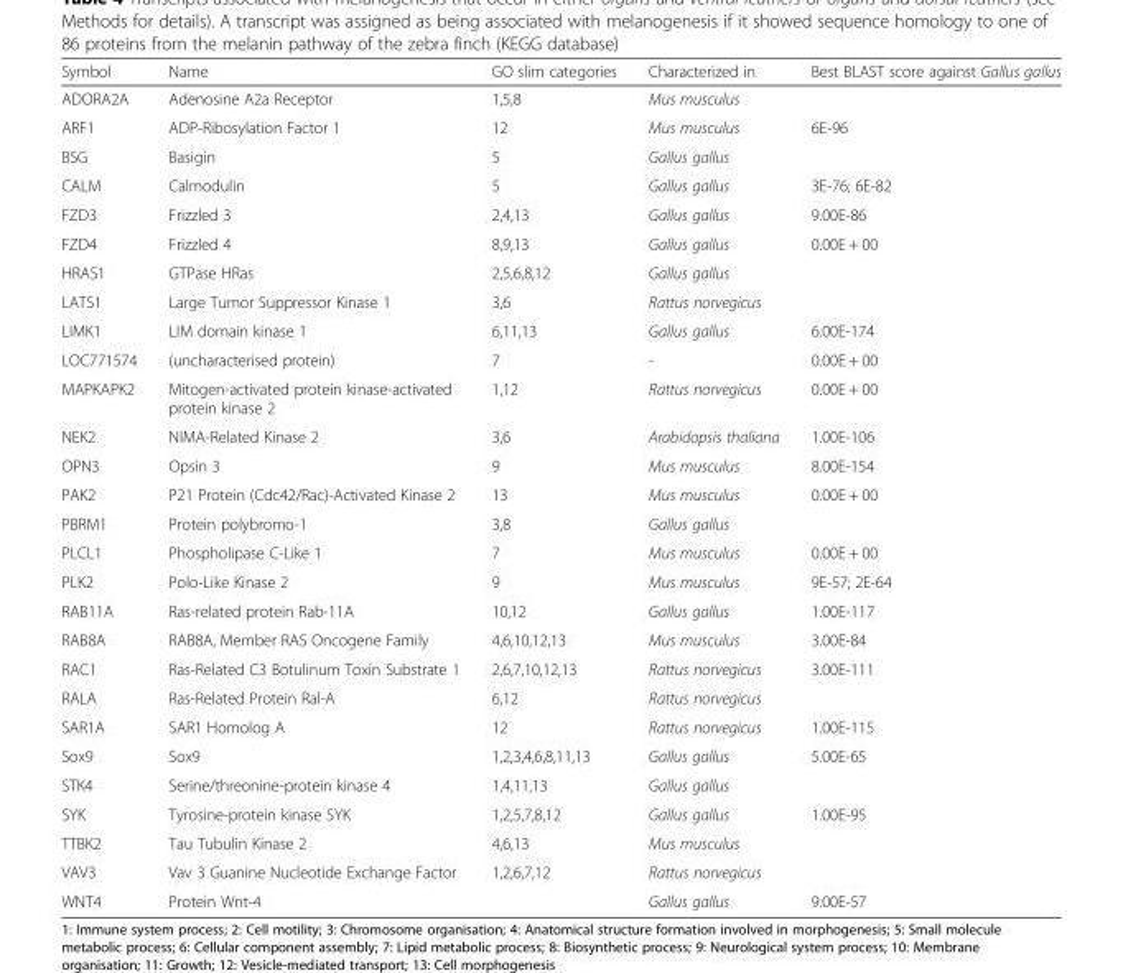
<table><thead><tr><td>Symbol</td><td>Name</td><td>GO slim categories</td><td>Characterized in</td><td>Best BLAST score against Gallus gallus</td></tr></thead><tbody><tr><td>ADORA2A</td><td>Adenosine A2a Receptor</td><td>1,5,8</td><td>Mus musculus</td><td></td></tr><tr><td>ARF1</td><td>ADP-Ribosylation Factor 1</td><td>12</td><td>Mus musculus</td><td>6E-96</td></tr><tr><td>BSG</td><td>Basigin</td><td>5</td><td>Gallus gallus</td><td></td></tr><tr><td>CALM</td><td>Calmodulin</td><td>5</td><td>Gallus gallus</td><td>3E-76; 6E-82</td></tr><tr><td>FZD3</td><td>Frizzled 3</td><td>2,4,13</td><td>Gallus gallus</td><td>9.00E-86</td></tr><tr><td>FZD4</td><td>Frizzled 4</td><td>8,9,13</td><td>Gallus gallus</td><td>0.00E + 00</td></tr><tr><td>HRAS1</td><td>GTPase HRas</td><td>2,5,6,8,12</td><td>Gallus gallus</td><td></td></tr><tr><td>LATS1</td><td>Large Tumor Suppressor Kinase 1</td><td>3,6</td><td>Rattus norvegicus</td><td></td></tr><tr><td>LIMK1</td><td>LIM domain kinase 1</td><td>6,11,13</td><td>Gallus gallus</td><td>6.00E-174</td></tr><tr><td>LOC771574</td><td>(uncharacterised protein)</td><td>7</td><td>-</td><td>0.00E + 00</td></tr><tr><td>MAPKAPK2</td><td>Mitogen-activated protein kinase-activated protein kinase 2</td><td>1,12</td><td>Rattus norvegicus</td><td>0.00E + 00</td></tr><tr><td>NEK2</td><td>NIMA-Related Kinase 2</td><td>3,6</td><td>Arabidopsis thaliana</td><td>1.00E-106</td></tr><tr><td>OPN3</td><td>Opsin 3</td><td>9</td><td>Mus musculus</td><td>8.00E-154</td></tr><tr><td>PAK2</td><td>P21 Protein (Cdc42/Rac)-Activated Kinase 2</td><td>13</td><td>Mus musculus</td><td>0.00E + 00</td></tr><tr><td>PBRM1</td><td>Protein polybromo-1</td><td>3,8</td><td>Gallus gallus</td><td></td></tr><tr><td>PLCL1</td><td>Phospholipase C-Like 1</td><td>7</td><td>Mus musculus</td><td>0.00E + 00</td></tr><tr><td>PLK2</td><td>Polo-Like Kinase 2</td><td>9</td><td>Mus musculus</td><td>9E-57; 2E-64</td></tr><tr><td>RAB11A</td><td>Ras-related protein Rab-11A</td><td>10,12</td><td>Gallus gallus</td><td>1.00E-117</td></tr><tr><td>RAB8A</td><td>RAB8A, Member RAS Oncogene Family</td><td>4,6,10,12,13</td><td>Mus musculus</td><td>3.00E-84</td></tr><tr><td>RAC1</td><td>Ras-Related C3 Botulinum Toxin Substrate 1</td><td>2,6,7,10,12,13</td><td>Rattus norvegicus</td><td>3.00E-111</td></tr><tr><td>RALA</td><td>Ras-Related Protein Ral-A</td><td>6,12</td><td>Rattus norvegicus</td><td></td></tr><tr><td>SAR1A</td><td>SAR1 Homolog A</td><td>12</td><td>Rattus norvegicus</td><td>1.00E-115</td></tr><tr><td>Sox9</td><td>Sox9</td><td>1,2,3,4,6,8,11,13</td><td>Gallus gallus</td><td>5.00E-65</td></tr><tr><td>STK4</td><td>Serine/threonine-protein kinase 4</td><td>1,4,11,13</td><td>Gallus gallus</td><td></td></tr><tr><td>SYK</td><td>Tyrosine-protein kinase SYK</td><td>1,2,5,7,8,12</td><td>Gallus gallus</td><td>1.00E-95</td></tr><tr><td>TTBK2</td><td>Tau Tubulin Kinase 2</td><td>4,6,13</td><td>Mus musculus</td><td></td></tr><tr><td>VAV3</td><td>Vav 3 Guanine Nucleotide Exchange Factor</td><td>1,2,6,7,12</td><td>Rattus norvegicus</td><td></td></tr><tr><td>WNT4</td><td>Protein Wnt-4</td><td></td><td>Gallus gallus</td><td>9.00E-57</td></tr></tbody></table>